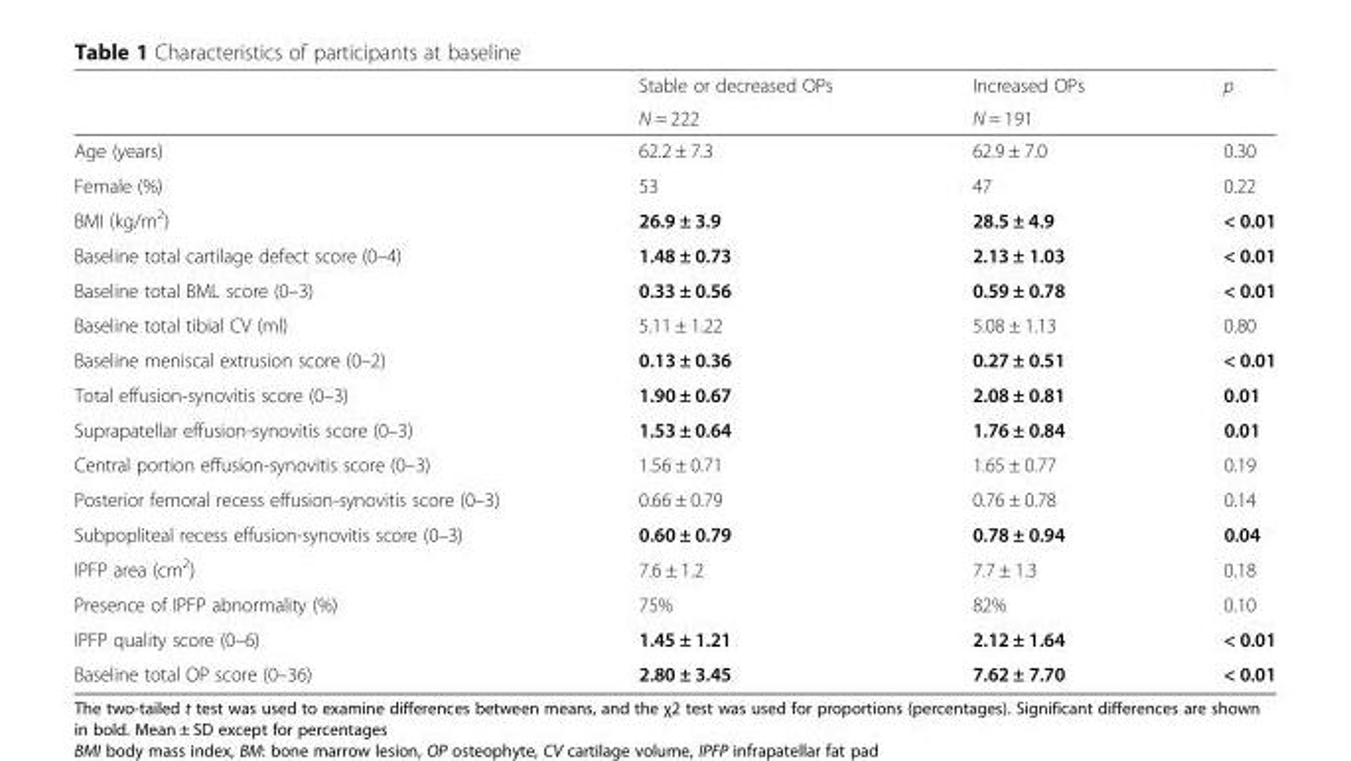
<table><thead><tr><td rowspan="2"></td><td rowspan="2">Stable or decreased OPs N = 222</td><td rowspan="2">Increased OPs N = 191</td><td rowspan="2">p</td></tr><tr></tr></thead><tbody><tr><td>Age (years)</td><td>62.2 ± 7.3</td><td>62.9 ± 7.0</td><td>0.30</td></tr><tr><td>Female (%)</td><td>53</td><td>47</td><td>0.22</td></tr><tr><td>BMI (kg/m<sup>2</sup>)</td><td>26.9 ± 3.9</td><td>28.5 ± 4.9</td><td>&lt; 0.01</td></tr><tr><td>Baseline total cartilage defect score (0–4)</td><td>1.48 ± 0.73</td><td>2.13 ± 1.03</td><td>&lt; 0.01</td></tr><tr><td>Baseline total BML score (0–3)</td><td>0.33 ± 0.56</td><td>0.59 ± 0.78</td><td>&lt; 0.01</td></tr><tr><td>Baseline total tibial CV (ml)</td><td>5.11 ± 1.22</td><td>5.08 ± 1.13</td><td>0.80</td></tr><tr><td>Baseline meniscal extrusion score (0–2)</td><td>0.13 ± 0.36</td><td>0.27 ± 0.51</td><td>&lt; 0.01</td></tr><tr><td>Total effusion-synovitis score (0–3)</td><td>1.90 ± 0.67</td><td>2.08 ± 0.81</td><td>0.01</td></tr><tr><td>Suprapatellar effusion-synovitis score (0–3)</td><td>1.53 ± 0.64</td><td>1.76 ± 0.84</td><td>0.01</td></tr><tr><td>Central portion effusion-synovitis score (0–3)</td><td>1.56 ± 0.71</td><td>1.65 ± 0.77</td><td>0.19</td></tr><tr><td>Posterior femoral recess effusion-synovitis score (0–3)</td><td>0.66 ± 0.79</td><td>0.76 ± 0.78</td><td>0.14</td></tr><tr><td>Subpopliteal recess effusion-synovitis score (0–3)</td><td>0.60 ± 0.79</td><td>0.78 ± 0.94</td><td>0.04</td></tr><tr><td>IPFP area (cm<sup>2</sup>)</td><td>7.6 ± 1.2</td><td>7.7 ± 1.3</td><td>0.18</td></tr><tr><td>Presence of IPFP abnormality (%)</td><td>75%</td><td>82%</td><td>0.10</td></tr><tr><td>IPFP quality score (0–6)</td><td>1.45 ± 1.21</td><td>2.12 ± 1.64</td><td>&lt; 0.01</td></tr><tr><td>Baseline total OP score (0–36)</td><td>2.80 ± 3.45</td><td>7.62 ± 7.70</td><td>&lt; 0.01</td></tr></tbody></table>